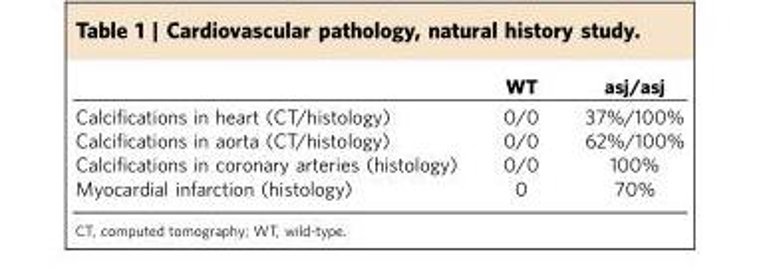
<table><thead><tr><td></td><td>WT</td><td>asj/asj</td></tr></thead><tbody><tr><td>Calcifications in heart (CT/histology)</td><td>0/0</td><td>37%/100%</td></tr><tr><td>Calcifications in aorta (CT/histology)</td><td>0/0</td><td>62%/100%</td></tr><tr><td>Calcifications in coronary arteries (histology)</td><td>0/0</td><td>100%</td></tr><tr><td>Myocardial infarction (histology)</td><td>0</td><td>70%</td></tr></tbody></table>